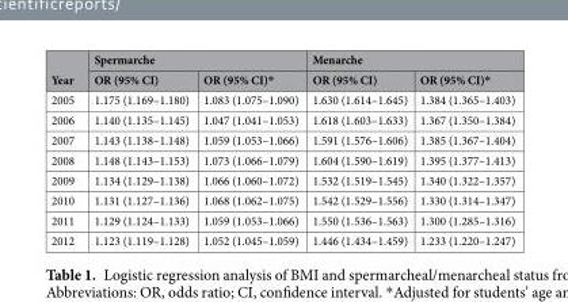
<table><thead><tr><td rowspan="2">Year</td><td colspan="2">Spermarche</td><td colspan="2">Menarche</td></tr><tr><td>OR (95% CI)</td><td>OR (95% CI)*</td><td>OR (95% CI)</td><td>OR (95% CI)*</td></tr></thead><tbody><tr><td>2005</td><td>1.175 (1.169–1.180)</td><td>1.083 (1.075–1.090)</td><td>1.630 (1.614–1.645)</td><td>1.384 (1.365–1.403)</td></tr><tr><td>2006</td><td>1.140 (1.135–1.145)</td><td>1.047 (1.041–1.053)</td><td>1.618 (1.603–1.633)</td><td>1.367 (1.350–1.384)</td></tr><tr><td>2007</td><td>1.143 (1.138–1.148)</td><td>1.059 (1.053–1.066)</td><td>1.591 (1.576–1.606)</td><td>1.385 (1.367–1.404)</td></tr><tr><td>2008</td><td>1.148 (1.143–1.153)</td><td>1.073 (1.066–1.079)</td><td>1.604 (1.590–1.619)</td><td>1.395 (1.377–1.413)</td></tr><tr><td>2009</td><td>1.134 (1.129–1.138)</td><td>1.066 (1.060–1.072)</td><td>1.532 (1.519–1.545)</td><td>1.340 (1.322–1.357)</td></tr><tr><td>2010</td><td>1.131 (1.127–1.136)</td><td>1.068 (1.062–1.075)</td><td>1.542 (1.529–1.556)</td><td>1.330 (1.314–1.347)</td></tr><tr><td>2011</td><td>1.129 (1.124–1.133)</td><td>1.059 (1.053–1.066)</td><td>1.550 (1.536–1.563)</td><td>1.300 (1.285–1.316)</td></tr><tr><td>2012</td><td>1.123 (1.119–1.128)</td><td>1.052 (1.045–1.059)</td><td>1.446 (1.434–1.459)</td><td>1.233 (1.220–1.247)</td></tr></tbody></table>